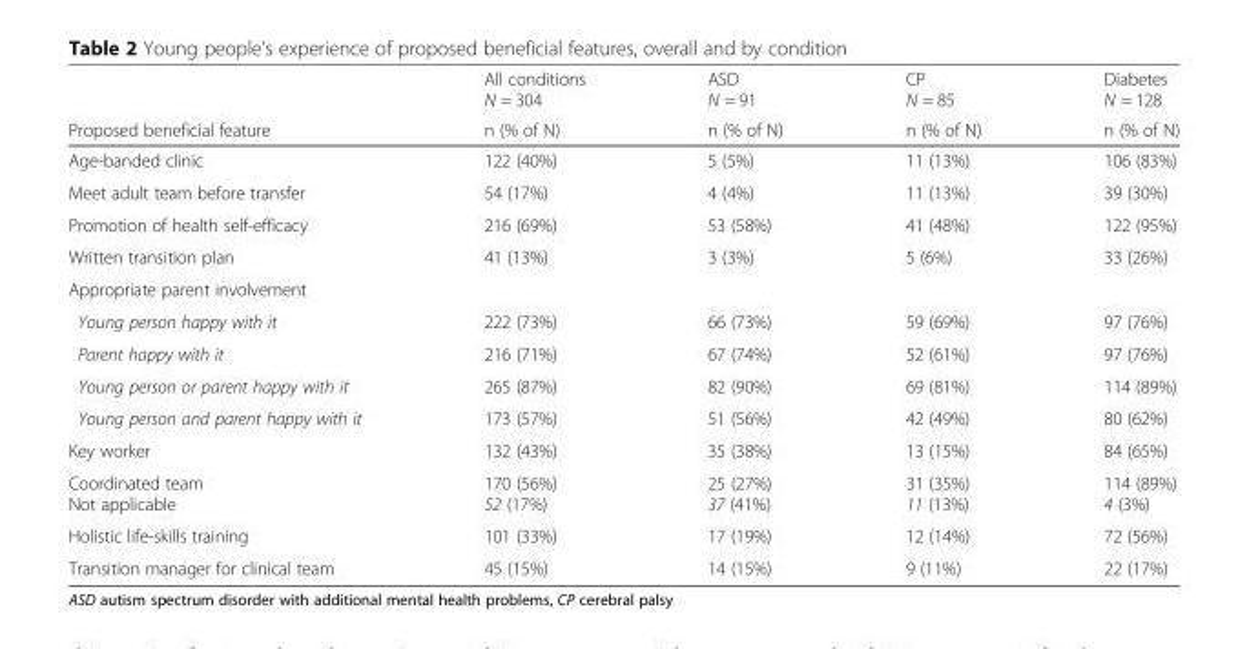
<table><thead><tr><td rowspan="2">Proposed beneficial feature</td><td rowspan="2">All conditions N = 304 n (% of N)</td><td rowspan="2">ASD N = 91 n (% of N)</td><td rowspan="2">CP N = 85 n (% of N)</td><td rowspan="2">Diabetes N = 128 n (% of N)</td></tr><tr></tr></thead><tbody><tr><td>Age-banded clinic</td><td>122 (40%)</td><td>5 (5%)</td><td>11 (13%)</td><td>106 (83%)</td></tr><tr><td>Meet adult team before transfer</td><td>54 (17%)</td><td>4 (4%)</td><td>11 (13%)</td><td>39 (30%)</td></tr><tr><td>Promotion of health self-efficacy</td><td>216 (69%)</td><td>53 (58%)</td><td>41 (48%)</td><td>122 (95%)</td></tr><tr><td>Written transition plan</td><td>41 (13%)</td><td>3 (3%)</td><td>5 (6%)</td><td>33 (26%)</td></tr><tr><td colspan="5">Appropriate parent involvement</td></tr><tr><td>Young person happy with it</td><td>222 (73%)</td><td>66 (73%)</td><td>59 (69%)</td><td>97 (76%)</td></tr><tr><td>Parent happy with it</td><td>216 (71%)</td><td>67 (74%)</td><td>52 (61%)</td><td>97 (76%)</td></tr><tr><td>Young person or parent happy with it</td><td>265 (87%)</td><td>82 (90%)</td><td>69 (81%)</td><td>114 (89%)</td></tr><tr><td>Young person and parent happy with it</td><td>173 (57%)</td><td>51 (56%)</td><td>42 (49%)</td><td>80 (62%)</td></tr><tr><td>Key worker</td><td>132 (43%)</td><td>35 (38%)</td><td>13 (15%)</td><td>84 (65%)</td></tr><tr><td>Coordinated team Not applicable</td><td>170 (56%) 52 (17%)</td><td>25 (27%) 37 (41%)</td><td>31 (35%) 11 (13%)</td><td>114 (89%) 4 (3%)</td></tr><tr><td>Holistic life-skills training</td><td>101 (33%)</td><td>17 (19%)</td><td>12 (14%)</td><td>72 (56%)</td></tr><tr><td>Transition manager for clinical team</td><td>45 (15%)</td><td>14 (15%)</td><td>9 (11%)</td><td>22 (17%)</td></tr></tbody></table>